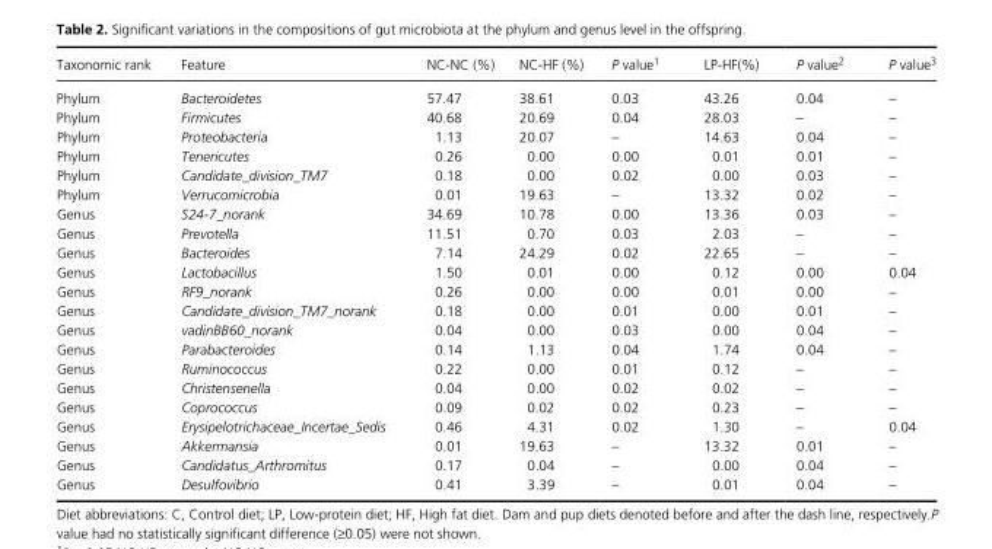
<table><thead><tr><td>Taxonomic rank</td><td>Feature</td><td>NC- NC (%)</td><td>NC- HF (%)</td><td>P value1</td><td>LP- HF(%)</td><td>P value2</td><td>P value3</td></tr></thead><tbody><tr><td>Phylum</td><td>Bacteroidetes</td><td>57.47</td><td>38.61</td><td>0.03</td><td>43.26</td><td>0.04</td><td>–</td></tr><tr><td>Phylum</td><td>Firmicutes</td><td>40.68</td><td>20.69</td><td>0.04</td><td>28.03</td><td>–</td><td>–</td></tr><tr><td>Phylum</td><td>Proteobacteria</td><td>1.13</td><td>20.07</td><td>–</td><td>14.63</td><td>0.04</td><td>–</td></tr><tr><td>Phylum</td><td>Tenericutes</td><td>0.26</td><td>0.00</td><td>0.00</td><td>0.01</td><td>0.01</td><td>–</td></tr><tr><td>Phylum</td><td>Candidate_division_TM7</td><td>0.18</td><td>0.00</td><td>0.02</td><td>0.00</td><td>0.03</td><td>–</td></tr><tr><td>Phylum</td><td>Verrucomicrobia</td><td>0.01</td><td>19.63</td><td>–</td><td>13.32</td><td>0.02</td><td>–</td></tr><tr><td>Genus</td><td>S24-7_norank</td><td>34.69</td><td>10.78</td><td>0.00</td><td>13.36</td><td>0.03</td><td>–</td></tr><tr><td>Genus</td><td>Prevotella</td><td>11.51</td><td>0.70</td><td>0.03</td><td>2.03</td><td>–</td><td>–</td></tr><tr><td>Genus</td><td>Bacteroides</td><td>7.14</td><td>24.29</td><td>0.02</td><td>22.65</td><td>–</td><td>–</td></tr><tr><td>Genus</td><td>Lactobacillus</td><td>1.50</td><td>0.01</td><td>0.00</td><td>0.12</td><td>0.00</td><td>0.04</td></tr><tr><td>Genus</td><td>RF9_norank</td><td>0.26</td><td>0.00</td><td>0.00</td><td>0.01</td><td>0.00</td><td>–</td></tr><tr><td>Genus</td><td>Candidate_division_TM7_norank</td><td>0.18</td><td>0.00</td><td>0.01</td><td>0.00</td><td>0.01</td><td>–</td></tr><tr><td>Genus</td><td>vadinBB60_norank</td><td>0.04</td><td>0.00</td><td>0.03</td><td>0.00</td><td>0.04</td><td>–</td></tr><tr><td>Genus</td><td>Parabacteroides</td><td>0.14</td><td>1.13</td><td>0.04</td><td>1.74</td><td>0.04</td><td>–</td></tr><tr><td>Genus</td><td>Ruminococcus</td><td>0.22</td><td>0.00</td><td>0.01</td><td>0.12</td><td>–</td><td>–</td></tr><tr><td>Genus</td><td>Christensenella</td><td>0.04</td><td>0.00</td><td>0.02</td><td>0.02</td><td>–</td><td>–</td></tr><tr><td>Genus</td><td>Coprococcus</td><td>0.09</td><td>0.02</td><td>0.02</td><td>0.23</td><td>–</td><td>–</td></tr><tr><td>Genus</td><td>Erysipelotrichaceae_Incertae_Sedis</td><td>0.46</td><td>4.31</td><td>0.02</td><td>1.30</td><td>–</td><td>0.04</td></tr><tr><td>Genus</td><td>Akkermansia</td><td>0.01</td><td>19.63</td><td>–</td><td>13.32</td><td>0.01</td><td>–</td></tr><tr><td>Genus</td><td>Candidatus_Arthromitus</td><td>0.17</td><td>0.04</td><td>–</td><td>0.00</td><td>0.04</td><td>–</td></tr><tr><td>Genus</td><td>Desulfovibrio</td><td>0.41</td><td>3.39</td><td>–</td><td>0.01</td><td>0.04</td><td>–</td></tr></tbody></table>